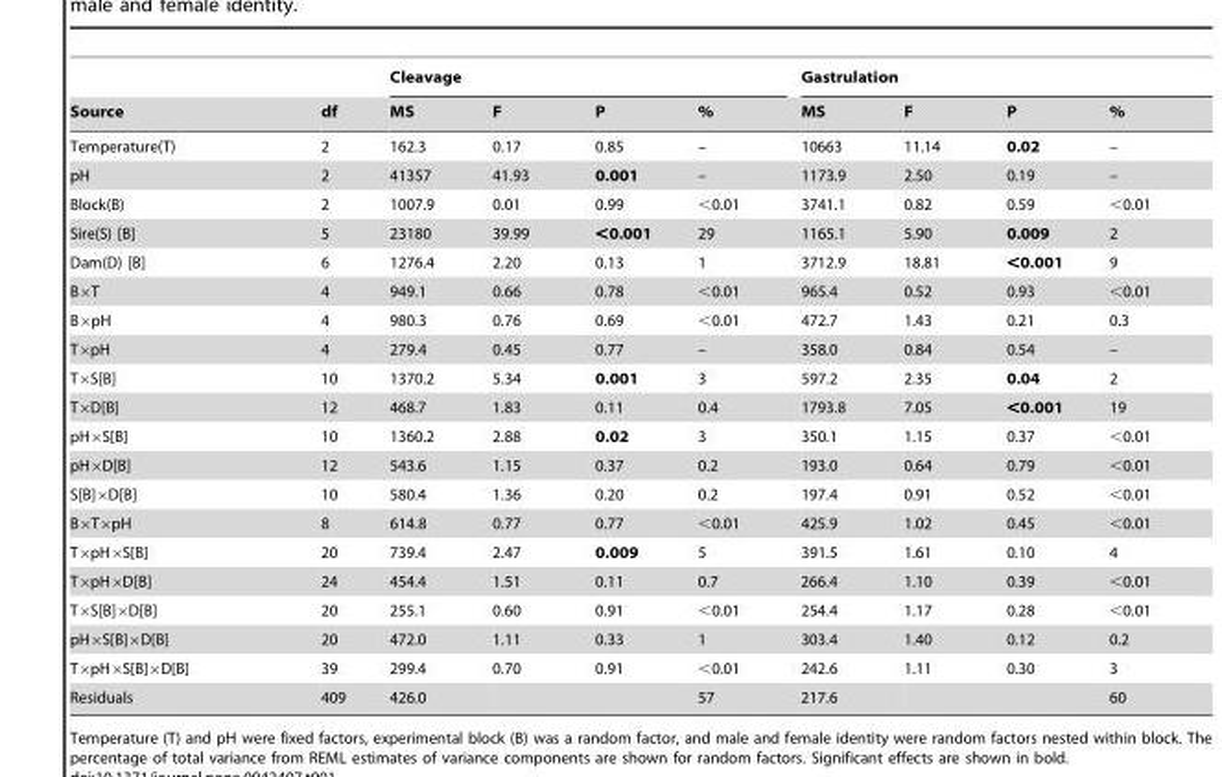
<table><thead><tr><td rowspan="2">Source</td><td rowspan="2">df</td><td colspan="4">Cleavage</td><td colspan="4">Gastrulation</td></tr><tr><td>MS</td><td>F</td><td>P</td><td>%</td><td>MS</td><td>F</td><td>P</td><td>%</td></tr></thead><tbody><tr><td>Temperature(T)</td><td>2</td><td>162.3</td><td>0.17</td><td>0.85</td><td>–</td><td>10663</td><td>11.14</td><td>0.02</td><td>–</td></tr><tr><td>pH</td><td>2</td><td>41357</td><td>41.93</td><td>0.001</td><td>–</td><td>1173.9</td><td>2.50</td><td>0.19</td><td>–</td></tr><tr><td>Block(B)</td><td>2</td><td>1007.9</td><td>0.01</td><td>0.99</td><td>&lt;0.01</td><td>3741.1</td><td>0.82</td><td>0.59</td><td>&lt;0.01</td></tr><tr><td>Sire(S) [B]</td><td>5</td><td>23180</td><td>39.99</td><td>&lt;0.001</td><td>29</td><td>1165.1</td><td>5.90</td><td>0.009</td><td>2</td></tr><tr><td>Dam(D) [B]</td><td>6</td><td>1276.4</td><td>2.20</td><td>0.13</td><td>1</td><td>3712.9</td><td>18.81</td><td>&lt;0.001</td><td>9</td></tr><tr><td>B×T</td><td>4</td><td>949.1</td><td>0.66</td><td>0.78</td><td>&lt;0.01</td><td>965.4</td><td>0.52</td><td>0.93</td><td>&lt;0.01</td></tr><tr><td>B×pH</td><td>4</td><td>980.3</td><td>0.76</td><td>0.69</td><td>&lt;0.01</td><td>472.7</td><td>1.43</td><td>0.21</td><td>0.3</td></tr><tr><td>T×pH</td><td>4</td><td>279.4</td><td>0.45</td><td>0.77</td><td>–</td><td>358.0</td><td>0.84</td><td>0.54</td><td>–</td></tr><tr><td>T×S[B]</td><td>10</td><td>1370.2</td><td>5.34</td><td>0.001</td><td>3</td><td>597.2</td><td>2.35</td><td>0.04</td><td>2</td></tr><tr><td>T×D[B]</td><td>12</td><td>468.7</td><td>1.83</td><td>0.11</td><td>0.4</td><td>1793.8</td><td>7.05</td><td>&lt;0.001</td><td>19</td></tr><tr><td>pH×S[B]</td><td>10</td><td>1360.2</td><td>2.88</td><td>0.02</td><td>3</td><td>350.1</td><td>1.15</td><td>0.37</td><td>&lt;0.01</td></tr><tr><td>pH×D[B]</td><td>12</td><td>543.6</td><td>1.15</td><td>0.37</td><td>0.2</td><td>193.0</td><td>0.64</td><td>0.79</td><td>&lt;0.01</td></tr><tr><td>S[B]×D[B]</td><td>10</td><td>580.4</td><td>1.36</td><td>0.20</td><td>0.2</td><td>197.4</td><td>0.91</td><td>0.52</td><td>&lt;0.01</td></tr><tr><td>B×T×pH</td><td>8</td><td>614.8</td><td>0.77</td><td>0.77</td><td>&lt;0.01</td><td>425.9</td><td>1.02</td><td>0.45</td><td>&lt;0.01</td></tr><tr><td>T×pH×S[B]</td><td>20</td><td>739.4</td><td>2.47</td><td>0.009</td><td>5</td><td>391.5</td><td>1.61</td><td>0.10</td><td>4</td></tr><tr><td>T×pH×D[B]</td><td>24</td><td>454.4</td><td>1.51</td><td>0.11</td><td>0.7</td><td>266.4</td><td>1.10</td><td>0.39</td><td>&lt;0.01</td></tr><tr><td>T×S[B]×D[B]</td><td>20</td><td>255.1</td><td>0.60</td><td>0.91</td><td>&lt;0.01</td><td>254.4</td><td>1.17</td><td>0.28</td><td>&lt;0.01</td></tr><tr><td>pH×S[B]×D[B]</td><td>20</td><td>472.0</td><td>1.11</td><td>0.33</td><td>1</td><td>303.4</td><td>1.40</td><td>0.12</td><td>0.2</td></tr><tr><td>T×pH×S[B]×D[B]</td><td>39</td><td>299.4</td><td>0.70</td><td>0.91</td><td>&lt;0.01</td><td>242.6</td><td>1.11</td><td>0.30</td><td>3</td></tr><tr><td>Residuals</td><td>409</td><td>426.0</td><td></td><td></td><td>57</td><td>217.6</td><td></td><td></td><td>60</td></tr></tbody></table>